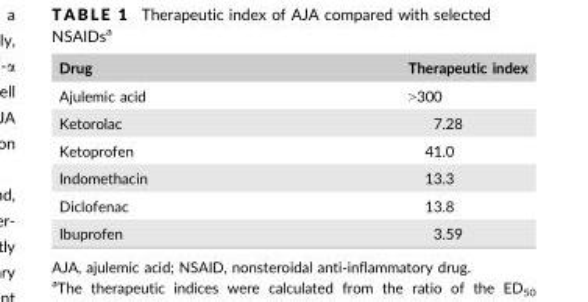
<table><thead><tr><td>Drug</td><td>Therapeutic index</td></tr></thead><tbody><tr><td>Ajulemic acid</td><td>&gt;300</td></tr><tr><td>Ketorolac</td><td>7.28</td></tr><tr><td>Ketoprofen</td><td>41.0</td></tr><tr><td>Indomethacin</td><td>13.3</td></tr><tr><td>Diclofenac</td><td>13.8</td></tr><tr><td>Ibuprofen</td><td>3.59</td></tr></tbody></table>